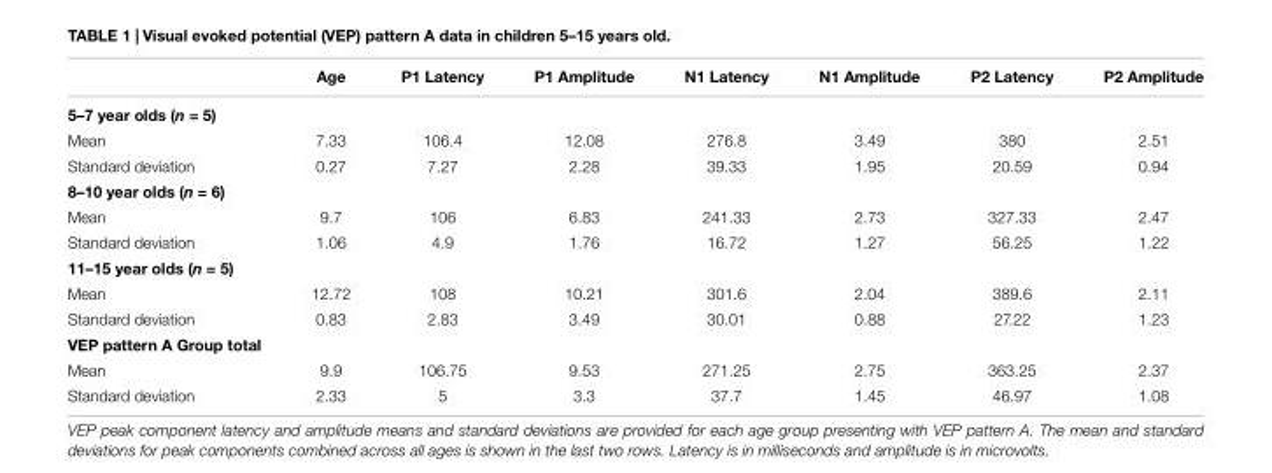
<table><thead><tr><td></td><td>Age</td><td>P1 Latency</td><td>P1 Amplitude</td><td>N1 Latency</td><td>N1 Amplitude</td><td>P2 Latency</td><td>P2 Amplitude</td></tr></thead><tbody><tr><td colspan="8">5–7 year olds (n = 5)</td></tr><tr><td>Mean</td><td>7.33</td><td>106.4</td><td>12.08</td><td>276.8</td><td>3.49</td><td>380</td><td>2.51</td></tr><tr><td>Standard deviation</td><td>0.27</td><td>7.27</td><td>2.28</td><td>39.33</td><td>1.95</td><td>20.59</td><td>0.94</td></tr><tr><td colspan="8">8–10 year olds (n = 6)</td></tr><tr><td>Mean</td><td>9.7</td><td>106</td><td>6.83</td><td>241.33</td><td>2.73</td><td>327.33</td><td>2.47</td></tr><tr><td>Standard deviation</td><td>1.06</td><td>4.9</td><td>1.76</td><td>16.72</td><td>1.27</td><td>56.25</td><td>1.22</td></tr><tr><td colspan="8">11–15 year olds (n = 5)</td></tr><tr><td>Mean</td><td>12.72</td><td>108</td><td>10.21</td><td>301.6</td><td>2.04</td><td>389.6</td><td>2.11</td></tr><tr><td>Standard deviation</td><td>0.83</td><td>2.83</td><td>3.49</td><td>30.01</td><td>0.88</td><td>27.22</td><td>1.23</td></tr><tr><td colspan="8">VEP pattern A Group total</td></tr><tr><td>Mean</td><td>9.9</td><td>106.75</td><td>9.53</td><td>271.25</td><td>2.75</td><td>363.25</td><td>2.37</td></tr><tr><td>Standard deviation</td><td>2.33</td><td>5</td><td>3.3</td><td>37.7</td><td>1.45</td><td>46.97</td><td>1.08</td></tr></tbody></table>